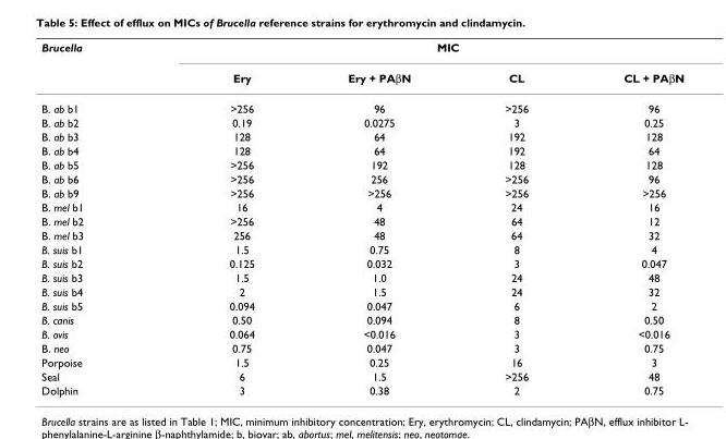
<table><thead><tr><td rowspan="2">Brucella</td><td colspan="4">MIC</td></tr><tr><td>Ery</td><td>Ery + PAβN</td><td>CL</td><td>CL + PAβN</td></tr></thead><tbody><tr><td>B. ab b1</td><td>&gt;256</td><td>96</td><td>&gt;256</td><td>96</td></tr><tr><td>B. ab b2</td><td>0.19</td><td>0.0275</td><td>3</td><td>0.25</td></tr><tr><td>B. ab b3</td><td>128</td><td>64</td><td>192</td><td>128</td></tr><tr><td>B. ab b4</td><td>128</td><td>64</td><td>192</td><td>64</td></tr><tr><td>B. ab b5</td><td>&gt;256</td><td>192</td><td>128</td><td>128</td></tr><tr><td>B. ab b6</td><td>&gt;256</td><td>256</td><td>&gt;256</td><td>96</td></tr><tr><td>B. ab b9</td><td>&gt;256</td><td>&gt;256</td><td>&gt;256</td><td>&gt;256</td></tr><tr><td>B. mel b1</td><td>16</td><td>4</td><td>24</td><td>16</td></tr><tr><td>B. mel b2</td><td>&gt;256</td><td>48</td><td>64</td><td>12</td></tr><tr><td>B. mel b3</td><td>256</td><td>48</td><td>64</td><td>32</td></tr><tr><td>B. suis b1</td><td>1.5</td><td>0.75</td><td>8</td><td>4</td></tr><tr><td>B. suis b2</td><td>0.125</td><td>0.032</td><td>3</td><td>0.047</td></tr><tr><td>B. suis b3</td><td>1.5</td><td>1.0</td><td>24</td><td>48</td></tr><tr><td>B. suis b4</td><td>2</td><td>1.5</td><td>24</td><td>32</td></tr><tr><td>B. suis b5</td><td>0.094</td><td>0.047</td><td>6</td><td>2</td></tr><tr><td>B. canis</td><td>0.50</td><td>0.094</td><td>8</td><td>0.50</td></tr><tr><td>B. ovis</td><td>0.064</td><td>&lt;0.016</td><td>3</td><td>&lt;0.016</td></tr><tr><td>B. neo</td><td>0.75</td><td>0.047</td><td>3</td><td>0.75</td></tr><tr><td>Porpoise</td><td>1.5</td><td>0.25</td><td>16</td><td>3</td></tr><tr><td>Seal</td><td>6</td><td>1.5</td><td>&gt;256</td><td>48</td></tr><tr><td>Dolphin</td><td>3</td><td>0.38</td><td>2</td><td>0.75</td></tr></tbody></table>